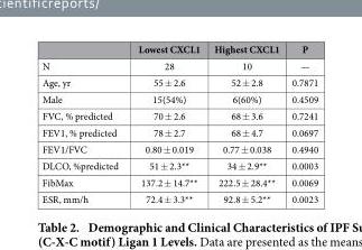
<table><thead><tr><td></td><td>Lowest CXCL1</td><td>Highest CXCL1</td><td>P</td></tr></thead><tbody><tr><td>N</td><td>28</td><td>10</td><td>—</td></tr><tr><td>Age, yr</td><td>55 ± 2.6</td><td>52 ± 2.8</td><td>0.7871</td></tr><tr><td>Male</td><td>15(54%)</td><td>6(60%)</td><td>0.4509</td></tr><tr><td>FVC, % predicted</td><td>70 ± 2.6</td><td>68 ± 3.6</td><td>0.7241</td></tr><tr><td>FEV1, % predicted</td><td>78 ± 2.7</td><td>68 ± 4.7</td><td>0.0697</td></tr><tr><td>FEV1/FVC</td><td>0.80 ± 0.019</td><td>0.77 ± 0.038</td><td>0.4940</td></tr><tr><td>DLCO, %predicted</td><td>51 ± 2.3**</td><td>34 ± 2.9**</td><td>0.0003</td></tr><tr><td>FibMax</td><td>137.2 ± 14.7**</td><td>222.5 ± 28.4**</td><td>0.0069</td></tr><tr><td>ESR, mm/h</td><td>72.4 ± 3.3**</td><td>92.8 ± 5.2**</td><td>0.0023</td></tr></tbody></table>